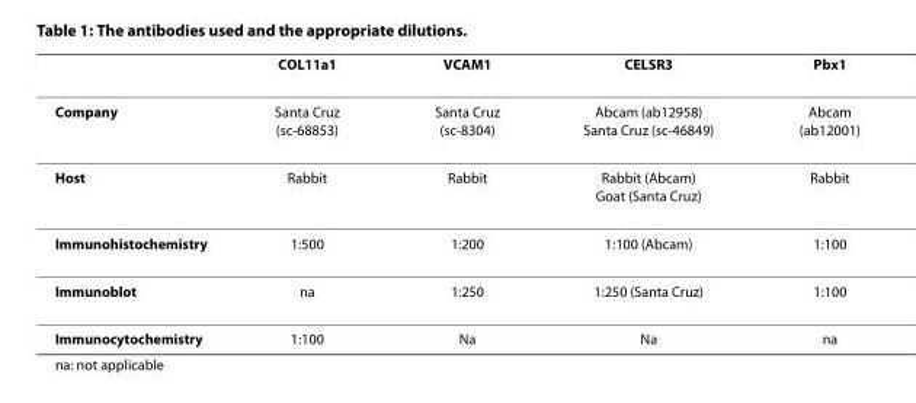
<table><thead><tr><td></td><td>COL11a1</td><td>VCAM1</td><td>CELSR3</td><td>Pbx1</td></tr></thead><tbody><tr><td>Company</td><td>Santa Cruz (sc-68853)</td><td>Santa Cruz (sc-8304)</td><td>Abcam (ab12958) Santa Cruz (sc-46849)</td><td>Abcam (ab12001)</td></tr><tr><td>Host</td><td>Rabbit</td><td>Rabbit</td><td>Rabbit (Abcam) Goat (Santa Cruz)</td><td>Rabbit</td></tr><tr><td>Immunohistochemistry</td><td>1:500</td><td>1:200</td><td>1:100 (Abcam)</td><td>1:100</td></tr><tr><td>Immunoblot</td><td>na</td><td>1:250</td><td>1:250 (Santa Cruz)</td><td>1:100</td></tr><tr><td>Immunocytochemistry</td><td>1:100</td><td>Na</td><td>Na</td><td>na</td></tr></tbody></table>